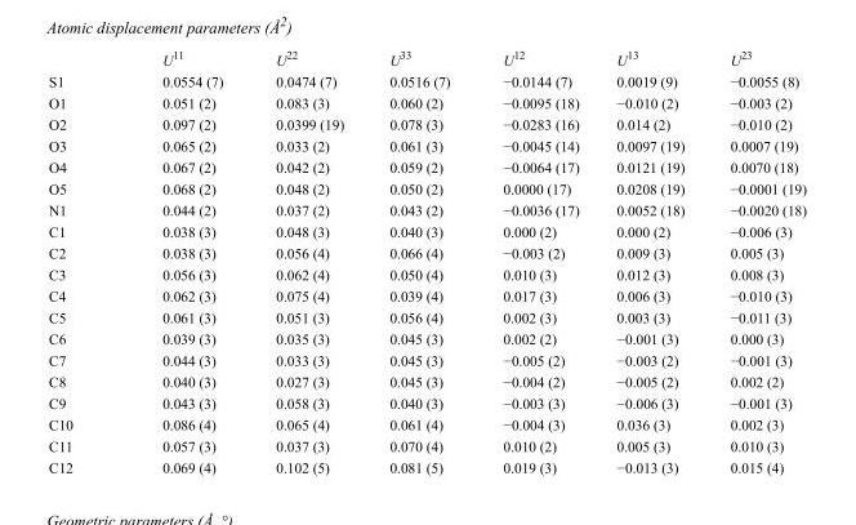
<table><thead><tr><td></td><td>U<sup>11</sup></td><td>U<sup>22</sup></td><td>U<sup>33</sup></td><td>U<sup>12</sup></td><td>U<sup>13</sup></td><td>U<sup>23</sup></td></tr></thead><tbody><tr><td>S1</td><td>0.0554 (7)</td><td>0.0474 (7)</td><td>0.0516 (7)</td><td>−0.0144 (7)</td><td>0.0019 (9)</td><td>−0.0055 (8)</td></tr><tr><td>O1</td><td>0.051 (2)</td><td>0.083 (3)</td><td>0.060 (2)</td><td>−0.0095 (18)</td><td>−0.010 (2)</td><td>−0.003 (2)</td></tr><tr><td>O2</td><td>0.097 (2)</td><td>0.0399 (19)</td><td>0.078 (3)</td><td>−0.0283 (16)</td><td>0.014 (2)</td><td>−0.010 (2)</td></tr><tr><td>O3</td><td>0.065 (2)</td><td>0.033 (2)</td><td>0.061 (3)</td><td>−0.0045 (14)</td><td>0.0097 (19)</td><td>0.0007 (19)</td></tr><tr><td>O4</td><td>0.067 (2)</td><td>0.042 (2)</td><td>0.059 (2)</td><td>−0.0064 (17)</td><td>0.0121 (19)</td><td>0.0070 (18)</td></tr><tr><td>O5</td><td>0.068 (2)</td><td>0.048 (2)</td><td>0.050 (2)</td><td>0.0000 (17)</td><td>0.0208 (19)</td><td>−0.0001 (19)</td></tr><tr><td>N1</td><td>0.044 (2)</td><td>0.037 (2)</td><td>0.043 (2)</td><td>−0.0036 (17)</td><td>0.0052 (18)</td><td>−0.0020 (18)</td></tr><tr><td>C1</td><td>0.038 (3)</td><td>0.048 (3)</td><td>0.040 (3)</td><td>0.000 (2)</td><td>0.000 (2)</td><td>−0.006 (3)</td></tr><tr><td>C2</td><td>0.038 (3)</td><td>0.056 (4)</td><td>0.066 (4)</td><td>−0.003 (2)</td><td>0.009 (3)</td><td>0.005 (3)</td></tr><tr><td>C3</td><td>0.056 (3)</td><td>0.062 (4)</td><td>0.050 (4)</td><td>0.010 (3)</td><td>0.012 (3)</td><td>0.008 (3)</td></tr><tr><td>C4</td><td>0.062 (3)</td><td>0.075 (4)</td><td>0.039 (4)</td><td>0.017 (3)</td><td>0.006 (3)</td><td>−0.010 (3)</td></tr><tr><td>C5</td><td>0.061 (3)</td><td>0.051 (3)</td><td>0.056 (4)</td><td>0.002 (3)</td><td>0.003 (3)</td><td>−0.011 (3)</td></tr><tr><td>C6</td><td>0.039 (3)</td><td>0.035 (3)</td><td>0.045 (3)</td><td>0.002 (2)</td><td>−0.001 (3)</td><td>0.000 (3)</td></tr><tr><td>C7</td><td>0.044 (3)</td><td>0.033 (3)</td><td>0.045 (3)</td><td>−0.005 (2)</td><td>−0.003 (2)</td><td>−0.001 (3)</td></tr><tr><td>C8</td><td>0.040 (3)</td><td>0.027 (3)</td><td>0.045 (3)</td><td>−0.004 (2)</td><td>−0.005 (2)</td><td>0.002 (2)</td></tr><tr><td>C9</td><td>0.043 (3)</td><td>0.058 (3)</td><td>0.040 (3)</td><td>−0.003 (3)</td><td>−0.006 (3)</td><td>−0.001 (3)</td></tr><tr><td>C10</td><td>0.086 (4)</td><td>0.065 (4)</td><td>0.061 (4)</td><td>−0.004 (3)</td><td>0.036 (3)</td><td>0.002 (3)</td></tr><tr><td>C11</td><td>0.057 (3)</td><td>0.037 (3)</td><td>0.070 (4)</td><td>0.010 (2)</td><td>0.005 (3)</td><td>0.010 (3)</td></tr><tr><td>C12</td><td>0.069 (4)</td><td>0.102 (5)</td><td>0.081 (5)</td><td>0.019 (3)</td><td>−0.013 (3)</td><td>0.015 (4)</td></tr></tbody></table>